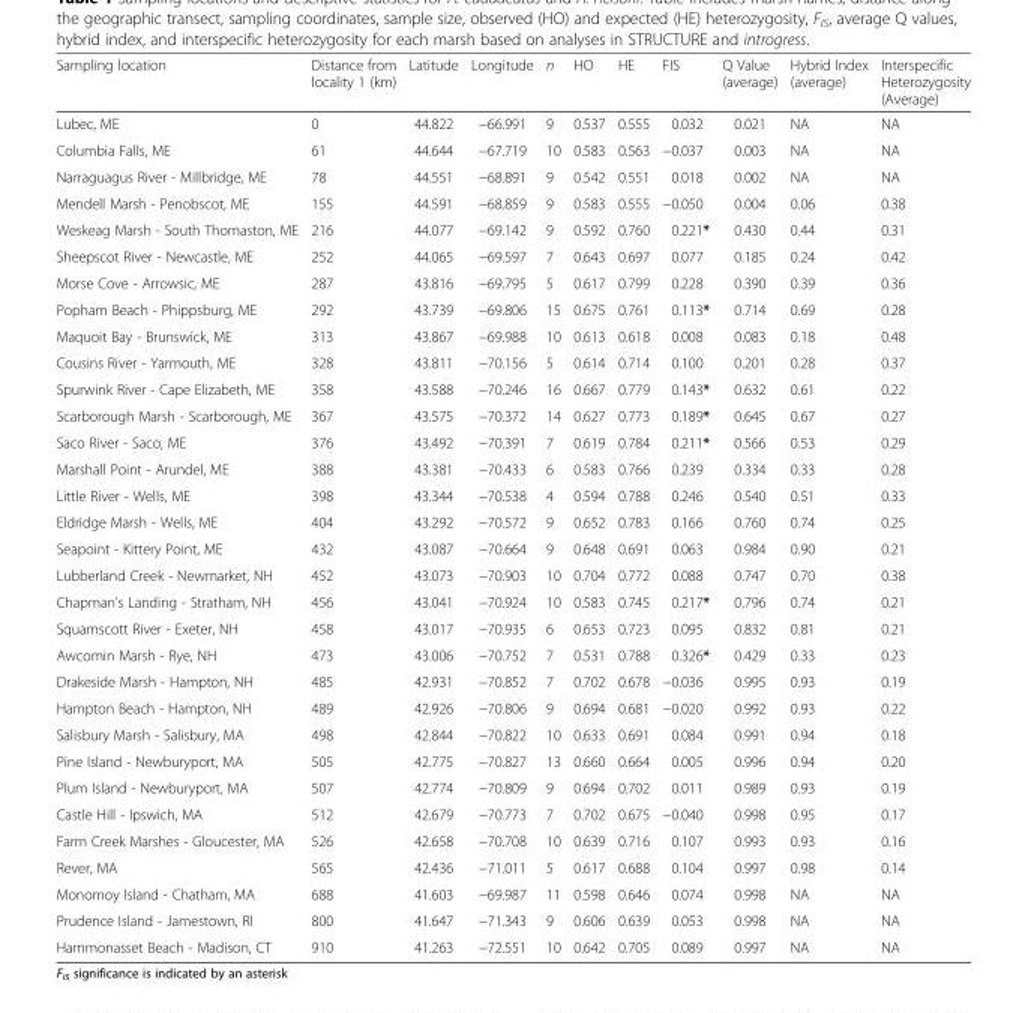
<table><thead><tr><td>Sampling location</td><td>Distance from locality 1 (km)</td><td>Latitude</td><td>Longitude</td><td>n</td><td>HO</td><td>HE</td><td>FIS</td><td>Q Value (average)</td><td>Hybrid Index (average)</td><td>Interspecific Heterozygosity (Average)</td></tr></thead><tbody><tr><td>Lubec, ME</td><td>0</td><td>44.822</td><td>−66.991</td><td>9</td><td>0.537</td><td>0.555</td><td>0.032</td><td>0.021</td><td>NA</td><td>NA</td></tr><tr><td>Columbia Falls, ME</td><td>61</td><td>44.644</td><td>−67.719</td><td>10</td><td>0.583</td><td>0.563</td><td>−0.037</td><td>0.003</td><td>NA</td><td>NA</td></tr><tr><td>Narraguagus River - Millbridge, ME</td><td>78</td><td>44.551</td><td>−68.891</td><td>9</td><td>0.542</td><td>0.551</td><td>0.018</td><td>0.002</td><td>NA</td><td>NA</td></tr><tr><td>Mendell Marsh - Penobscot, ME</td><td>155</td><td>44.591</td><td>−68.859</td><td>9</td><td>0.583</td><td>0.555</td><td>−0.050</td><td>0.004</td><td>0.06</td><td>0.38</td></tr><tr><td>Weskeag Marsh - South Thomaston, ME</td><td>216</td><td>44.077</td><td>−69.142</td><td>9</td><td>0.592</td><td>0.760</td><td>0.221*</td><td>0.430</td><td>0.44</td><td>0.31</td></tr><tr><td>Sheepscot River - Newcastle, ME</td><td>252</td><td>44.065</td><td>−69.597</td><td>7</td><td>0.643</td><td>0.697</td><td>0.077</td><td>0.185</td><td>0.24</td><td>0.42</td></tr><tr><td>Morse Cove - Arrowsic, ME</td><td>287</td><td>43.816</td><td>−69.795</td><td>5</td><td>0.617</td><td>0.799</td><td>0.228</td><td>0.390</td><td>0.39</td><td>0.36</td></tr><tr><td>Popham Beach - Phippsburg, ME</td><td>292</td><td>43.739</td><td>−69.806</td><td>15</td><td>0.675</td><td>0.761</td><td>0.113*</td><td>0.714</td><td>0.69</td><td>0.28</td></tr><tr><td>Maquoit Bay - Brunswick, ME</td><td>313</td><td>43.867</td><td>−69.988</td><td>10</td><td>0.613</td><td>0.618</td><td>0.008</td><td>0.083</td><td>0.18</td><td>0.48</td></tr><tr><td>Cousins River - Yarmouth, ME</td><td>328</td><td>43.811</td><td>−70.156</td><td>5</td><td>0.614</td><td>0.714</td><td>0.100</td><td>0.201</td><td>0.28</td><td>0.37</td></tr><tr><td>Spurwink River - Cape Elizabeth, ME</td><td>358</td><td>43.588</td><td>−70.246</td><td>16</td><td>0.667</td><td>0.779</td><td>0.143*</td><td>0.632</td><td>0.61</td><td>0.22</td></tr><tr><td>Scarborough Marsh - Scarborough, ME</td><td>367</td><td>43.575</td><td>−70.372</td><td>14</td><td>0.627</td><td>0.773</td><td>0.189*</td><td>0.645</td><td>0.67</td><td>0.27</td></tr><tr><td>Saco River - Saco, ME</td><td>376</td><td>43.492</td><td>−70.391</td><td>7</td><td>0.619</td><td>0.784</td><td>0.211*</td><td>0.566</td><td>0.53</td><td>0.29</td></tr><tr><td>Marshall Point - Arundel, ME</td><td>388</td><td>43.381</td><td>−70.433</td><td>6</td><td>0.583</td><td>0.766</td><td>0.239</td><td>0.334</td><td>0.33</td><td>0.28</td></tr><tr><td>Little River - Wells, ME</td><td>398</td><td>43.344</td><td>−70.538</td><td>4</td><td>0.594</td><td>0.788</td><td>0.246</td><td>0.540</td><td>0.51</td><td>0.33</td></tr><tr><td>Eldridge Marsh - Wells, ME</td><td>404</td><td>43.292</td><td>−70.572</td><td>9</td><td>0.652</td><td>0.783</td><td>0.166</td><td>0.760</td><td>0.74</td><td>0.25</td></tr><tr><td>Seapoint - Kittery Point, ME</td><td>432</td><td>43.087</td><td>−70.664</td><td>9</td><td>0.648</td><td>0.691</td><td>0.063</td><td>0.984</td><td>0.90</td><td>0.21</td></tr><tr><td>Lubberland Creek - Newmarket, NH</td><td>452</td><td>43.073</td><td>−70.903</td><td>10</td><td>0.704</td><td>0.772</td><td>0.088</td><td>0.747</td><td>0.70</td><td>0.38</td></tr><tr><td>Chapman’s Landing - Stratham, NH</td><td>456</td><td>43.041</td><td>−70.924</td><td>10</td><td>0.583</td><td>0.745</td><td>0.217*</td><td>0.796</td><td>0.74</td><td>0.21</td></tr><tr><td>Squamscott River - Exeter, NH</td><td>458</td><td>43.017</td><td>−70.935</td><td>6</td><td>0.653</td><td>0.723</td><td>0.095</td><td>0.832</td><td>0.81</td><td>0.21</td></tr><tr><td>Awcomin Marsh - Rye, NH</td><td>473</td><td>43.006</td><td>−70.752</td><td>7</td><td>0.531</td><td>0.788</td><td>0.326*</td><td>0.429</td><td>0.33</td><td>0.23</td></tr><tr><td>Drakeside Marsh - Hampton, NH</td><td>485</td><td>42.931</td><td>−70.852</td><td>7</td><td>0.702</td><td>0.678</td><td>−0.036</td><td>0.995</td><td>0.93</td><td>0.19</td></tr><tr><td>Hampton Beach - Hampton, NH</td><td>489</td><td>42.926</td><td>−70.806</td><td>9</td><td>0.694</td><td>0.681</td><td>−0.020</td><td>0.992</td><td>0.93</td><td>0.22</td></tr><tr><td>Salisbury Marsh - Salisbury, MA</td><td>498</td><td>42.844</td><td>−70.822</td><td>10</td><td>0.633</td><td>0.691</td><td>0.084</td><td>0.991</td><td>0.94</td><td>0.18</td></tr><tr><td>Pine Island - Newburyport, MA</td><td>505</td><td>42.775</td><td>−70.827</td><td>13</td><td>0.660</td><td>0.664</td><td>0.005</td><td>0.996</td><td>0.94</td><td>0.20</td></tr><tr><td>Plum Island - Newburyport, MA</td><td>507</td><td>42.774</td><td>−70.809</td><td>9</td><td>0.694</td><td>0.702</td><td>0.011</td><td>0.989</td><td>0.93</td><td>0.19</td></tr><tr><td>Castle Hill - Ipswich, MA</td><td>512</td><td>42.679</td><td>−70.773</td><td>7</td><td>0.702</td><td>0.675</td><td>−0.040</td><td>0.998</td><td>0.95</td><td>0.17</td></tr><tr><td>Farm Creek Marshes - Gloucester, MA</td><td>526</td><td>42.658</td><td>−70.708</td><td>10</td><td>0.639</td><td>0.716</td><td>0.107</td><td>0.993</td><td>0.93</td><td>0.16</td></tr><tr><td>Rever, MA</td><td>565</td><td>42.436</td><td>−71.011</td><td>5</td><td>0.617</td><td>0.688</td><td>0.104</td><td>0.997</td><td>0.98</td><td>0.14</td></tr><tr><td>Monomoy Island - Chatham, MA</td><td>688</td><td>41.603</td><td>−69.987</td><td>11</td><td>0.598</td><td>0.646</td><td>0.074</td><td>0.998</td><td>NA</td><td>NA</td></tr><tr><td>Prudence Island - Jamestown, RI</td><td>800</td><td>41.647</td><td>−71.343</td><td>9</td><td>0.606</td><td>0.639</td><td>0.053</td><td>0.998</td><td>NA</td><td>NA</td></tr><tr><td>Hammonasset Beach - Madison, CT</td><td>910</td><td>41.263</td><td>−72.551</td><td>10</td><td>0.642</td><td>0.705</td><td>0.089</td><td>0.997</td><td>NA</td><td>NA</td></tr></tbody></table>